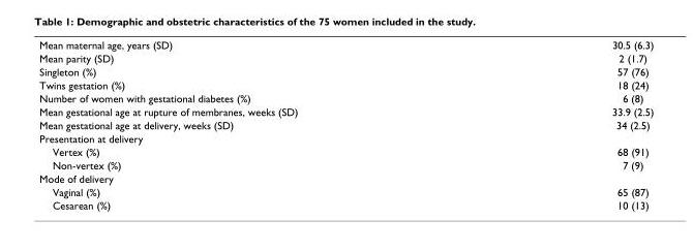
<table><tbody><tr><td>Mean maternal age, years (SD)</td><td>30.5 (6.3)</td></tr><tr><td>Mean parity (SD)</td><td>2 (1.7)</td></tr><tr><td>Singleton (%)</td><td>57 (76)</td></tr><tr><td>Twins gestation (%)</td><td>18 (24)</td></tr><tr><td>Number of women with gestational diabetes (%)</td><td>6 (8)</td></tr><tr><td>Mean gestational age at rupture of membranes, weeks (SD)</td><td>33.9 (2.5)</td></tr><tr><td>Mean gestational age at delivery, weeks (SD)</td><td>34 (2.5)</td></tr><tr><td colspan="2">Presentation at delivery</td></tr><tr><td>Vertex (%)</td><td>68 (91)</td></tr><tr><td>Non-vertex (%)</td><td>7 (9)</td></tr><tr><td colspan="2">Mode of delivery</td></tr><tr><td>Vaginal (%)</td><td>65 (87)</td></tr><tr><td>Cesarean (%)</td><td>10 (13)</td></tr></tbody></table>